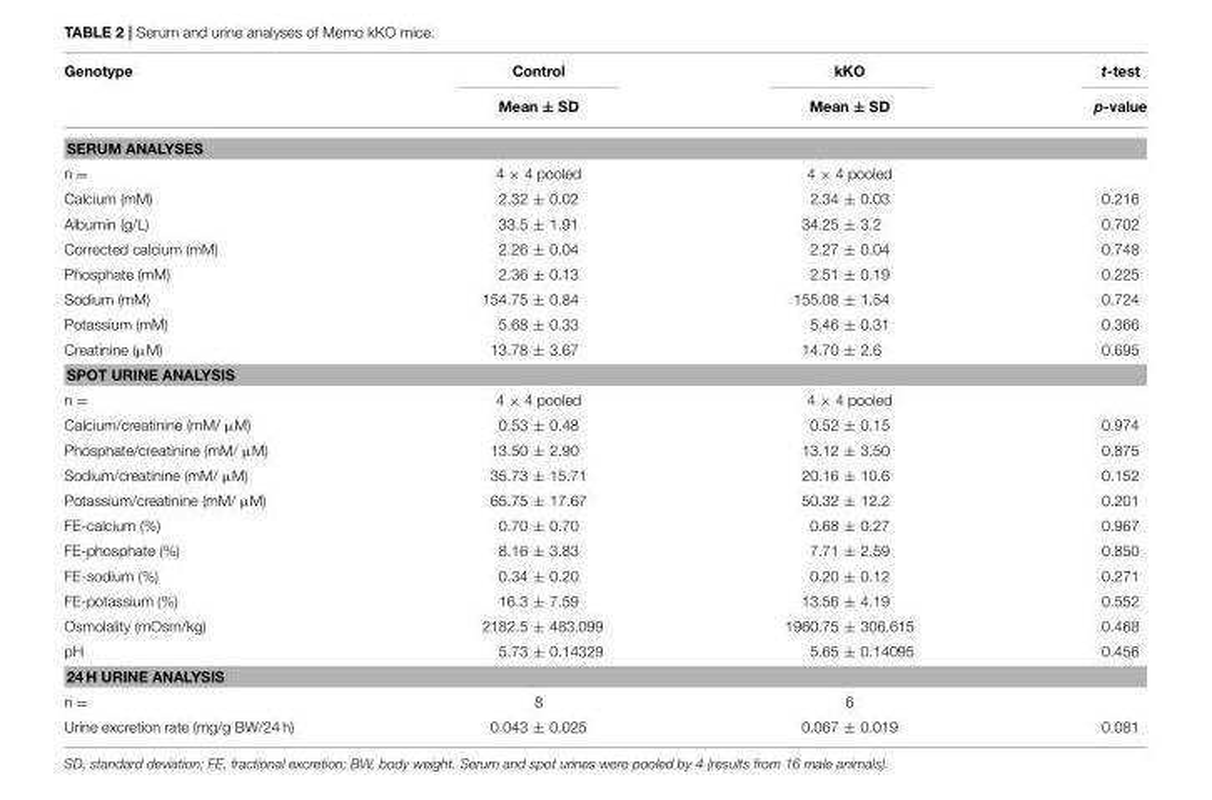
<table><thead><tr><td rowspan="2">Genotype</td><td rowspan="2">Control Mean ± SD</td><td rowspan="2">kKO Mean ± SD</td><td rowspan="2">t-test p-value</td></tr><tr></tr></thead><tbody><tr><td colspan="4">SERUM ANALYSES</td></tr><tr><td>n =</td><td>4 × 4 pooled</td><td>4 × 4 pooled</td><td></td></tr><tr><td>Calcium (mM)</td><td>2.32 ± 0.02</td><td>2.34 ± 0.03</td><td>0.216</td></tr><tr><td>Albumin (g/L)</td><td>33.5 ± 1.91</td><td>34.25 ± 3.2</td><td>0.702</td></tr><tr><td>Corrected calcium (mM)</td><td>2.26 ± 0.04</td><td>2.27 ± 0.04</td><td>0.748</td></tr><tr><td>Phosphate (mM)</td><td>2.36 ± 0.13</td><td>2.51 ± 0.19</td><td>0.225</td></tr><tr><td>Sodium (mM)</td><td>154.75 ± 0.84</td><td>155.08 ± 1.54</td><td>0.724</td></tr><tr><td>Potassium (mM)</td><td>5.68 ± 0.33</td><td>5.46 ± 0.31</td><td>0.366</td></tr><tr><td>Creatinine (µM)</td><td>13.78 ± 3.67</td><td>14.70 ± 2.6</td><td>0.695</td></tr><tr><td colspan="4">SPOT URINE ANALYSIS</td></tr><tr><td>n =</td><td>4 × 4 pooled</td><td>4 × 4 pooled</td><td></td></tr><tr><td>Calcium/creatinine (mM/ µM)</td><td>0.53 ± 0.48</td><td>0.52 ± 0.15</td><td>0.974</td></tr><tr><td>Phosphate/creatinine (mM/ µM)</td><td>13.50 ± 2.90</td><td>13.12 ± 3.50</td><td>0.875</td></tr><tr><td>Sodium/creatinine (mM/ µM)</td><td>35.73 ± 15.71</td><td>20.16 ± 10.6</td><td>0.152</td></tr><tr><td>Potassium/creatinine (mM/ µM)</td><td>65.75 ± 17.67</td><td>50.32 ± 12.2</td><td>0.201</td></tr><tr><td>FE-calcium (%)</td><td>0.70 ± 0.70</td><td>0.68 ± 0.27</td><td>0.967</td></tr><tr><td>FE-phosphate (%)</td><td>8.16 ± 3.83</td><td>7.71 ± 2.59</td><td>0.850</td></tr><tr><td>FE-sodium (%)</td><td>0.34 ± 0.20</td><td>0.20 ± 0.12</td><td>0.271</td></tr><tr><td>FE-potassium (%)</td><td>16.3 ± 7.59</td><td>13.56 ± 4.19</td><td>0.552</td></tr><tr><td>Osmolality (mOsm/kg)</td><td>2182.5 ± 483.099</td><td>1960.75 ± 306.615</td><td>0.468</td></tr><tr><td>pH</td><td>5.73 ± 0.14329</td><td>5.65 ± 0.14095</td><td>0.456</td></tr><tr><td colspan="4">24 H URINE ANALYSIS</td></tr><tr><td>n =</td><td>8</td><td>6</td><td></td></tr><tr><td>Urine excretion rate (mg/g BW/24 h)</td><td>0.043 ± 0.025</td><td>0.067 ± 0.019</td><td>0.081</td></tr></tbody></table>